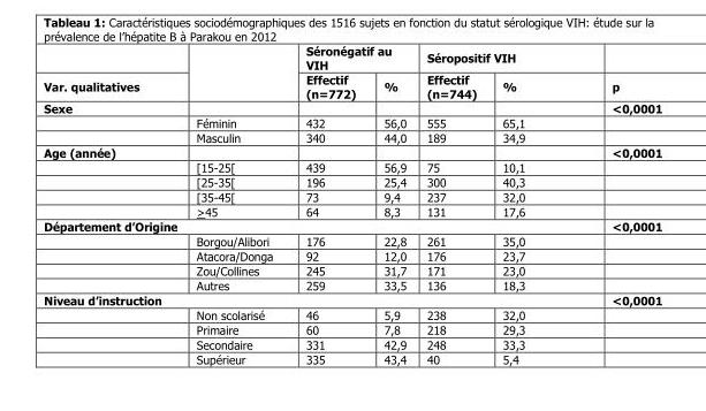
<table><thead><tr><td rowspan="2">Var. qualitatives</td><td rowspan="2"></td><td colspan="2">Séronégatif au VIH</td><td colspan="2">Séropositif VIH</td><td rowspan="2">p</td></tr><tr><td>Effectif (n=772)</td><td>%</td><td>Effectif (n=744)</td><td>%</td></tr></thead><tbody><tr><td rowspan="3">Sexe</td><td></td><td></td><td></td><td></td><td></td><td>&lt;0,0001</td></tr><tr><td>Féminin</td><td>432</td><td>56,0</td><td>555</td><td>65,1</td><td></td></tr><tr><td>Masculin</td><td>340</td><td>44,0</td><td>189</td><td>34,9</td><td></td></tr><tr><td rowspan="5">Age (année)</td><td></td><td></td><td></td><td></td><td></td><td>&lt;0,0001</td></tr><tr><td>[15-25[</td><td>439</td><td>56,9</td><td>75</td><td>10,1</td><td></td></tr><tr><td>[25-35[</td><td>196</td><td>25,4</td><td>300</td><td>40,3</td><td></td></tr><tr><td>[35-45[</td><td>73</td><td>9,4</td><td>237</td><td>32,0</td><td></td></tr><tr><td>&gt;45</td><td>64</td><td>8,3</td><td>131</td><td>17,6</td><td></td></tr><tr><td colspan="6">Département d’Origine</td><td>&lt;0,0001</td></tr><tr><td></td><td>Borgou/Alibori</td><td>176</td><td>22,8</td><td>261</td><td>35,0</td><td></td></tr><tr><td></td><td>Atacora/Donga</td><td>92</td><td>12,0</td><td>176</td><td>23,7</td><td></td></tr><tr><td></td><td>Zou/Collines</td><td>245</td><td>31,7</td><td>171</td><td>23,0</td><td></td></tr><tr><td></td><td>Autres</td><td>259</td><td>33,5</td><td>136</td><td>18,3</td><td></td></tr><tr><td colspan="6">Niveau d’instruction</td><td>&lt;0,0001</td></tr><tr><td></td><td>Non scolarisé</td><td>46</td><td>5,9</td><td>238</td><td>32,0</td><td></td></tr><tr><td></td><td>Primaire</td><td>60</td><td>7,8</td><td>218</td><td>29,3</td><td></td></tr><tr><td></td><td>Secondaire</td><td>331</td><td>42,9</td><td>248</td><td>33,3</td><td></td></tr><tr><td></td><td>Supérieur</td><td>335</td><td>43,4</td><td>40</td><td>5,4</td><td></td></tr></tbody></table>